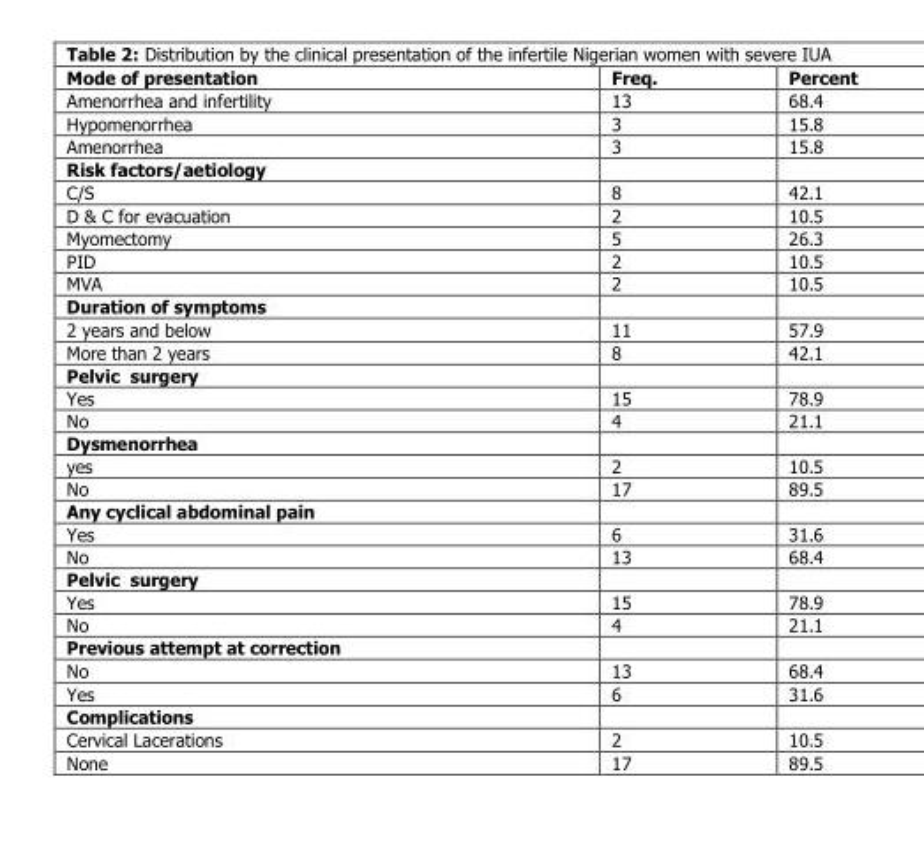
<table><thead><tr><td>Mode of presentation</td><td>Freq.</td><td>Percent</td></tr></thead><tbody><tr><td>Amenorrhea and infertility</td><td>13</td><td>68.4</td></tr><tr><td>Hypomenorrhea</td><td>3</td><td>15.8</td></tr><tr><td>Amenorrhea</td><td>3</td><td>15.8</td></tr><tr><td colspan="3">Risk factors/aetiology</td></tr><tr><td>C/S</td><td>8</td><td>42.1</td></tr><tr><td>D &amp; C for evacuation</td><td>2</td><td>10.5</td></tr><tr><td>Myomectomy</td><td>5</td><td>26.3</td></tr><tr><td>PID</td><td>2</td><td>10.5</td></tr><tr><td>MVA</td><td>2</td><td>10.5</td></tr><tr><td colspan="3">Duration of symptoms</td></tr><tr><td>2 years and below</td><td>11</td><td>57.9</td></tr><tr><td>More than 2 years</td><td>8</td><td>42.1</td></tr><tr><td colspan="3">Pelvic surgery</td></tr><tr><td>Yes</td><td>15</td><td>78.9</td></tr><tr><td>No</td><td>4</td><td>21.1</td></tr><tr><td colspan="3">Dysmenorrhea</td></tr><tr><td>yes</td><td>2</td><td>10.5</td></tr><tr><td>No</td><td>17</td><td>89.5</td></tr><tr><td colspan="3">Any cyclical abdominal pain</td></tr><tr><td>Yes</td><td>6</td><td>31.6</td></tr><tr><td>No</td><td>13</td><td>68.4</td></tr><tr><td colspan="3">Pelvic surgery</td></tr><tr><td>Yes</td><td>15</td><td>78.9</td></tr><tr><td>No</td><td>4</td><td>21.1</td></tr><tr><td colspan="3">Previous attempt at correction</td></tr><tr><td>No</td><td>13</td><td>68.4</td></tr><tr><td>Yes</td><td>6</td><td>31.6</td></tr><tr><td colspan="3">Complications</td></tr><tr><td>Cervical Lacerations</td><td>2</td><td>10.5</td></tr><tr><td>None</td><td>17</td><td>89.5</td></tr></tbody></table>